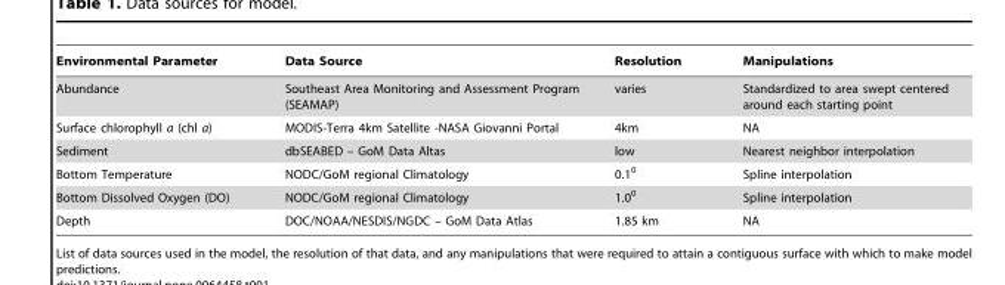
<table><thead><tr><td>Environmental Parameter</td><td>Data Source</td><td>Resolution</td><td>Manipulations</td></tr></thead><tbody><tr><td>Abundance</td><td>Southeast Area Monitoring and Assessment Program (SEAMAP)</td><td>varies</td><td>Standardized to area swept centered around each starting point</td></tr><tr><td>Surface chlorophyll a (chl a)</td><td>MODIS-Terra 4km Satellite -NASA Giovanni Portal</td><td>4km</td><td>NA</td></tr><tr><td>Sediment</td><td>dbSEABED – GoM Data Altas</td><td>low</td><td>Nearest neighbor interpolation</td></tr><tr><td>Bottom Temperature</td><td>NODC/GoM regional Climatology</td><td>0.1<sup>0</sup></td><td>Spline interpolation</td></tr><tr><td>Bottom Dissolved Oxygen (DO)</td><td>NODC/GoM regional Climatology</td><td>1.0<sup>0</sup></td><td>Spline interpolation</td></tr><tr><td>Depth</td><td>DOC/NOAA/NESDIS/NGDC – GoM Data Atlas</td><td>1.85 km</td><td>NA</td></tr></tbody></table>